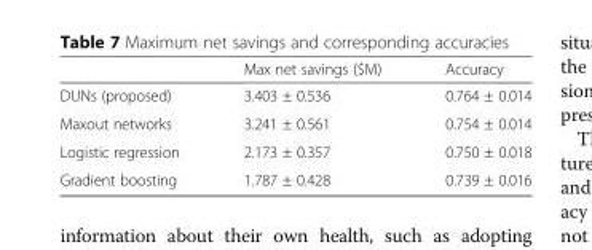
<table><thead><tr><td></td><td>Max net savings ($M)</td><td>Accuracy</td></tr></thead><tbody><tr><td>DUNs (proposed)</td><td>3.403 ± 0.536</td><td>0.764 ± 0.014</td></tr><tr><td>Maxout networks</td><td>3.241 ± 0.561</td><td>0.754 ± 0.014</td></tr><tr><td>Logistic regression</td><td>2.173 ± 0.357</td><td>0.750 ± 0.018</td></tr><tr><td>Gradient boosting</td><td>1.787 ± 0.428</td><td>0.739 ± 0.016</td></tr></tbody></table>